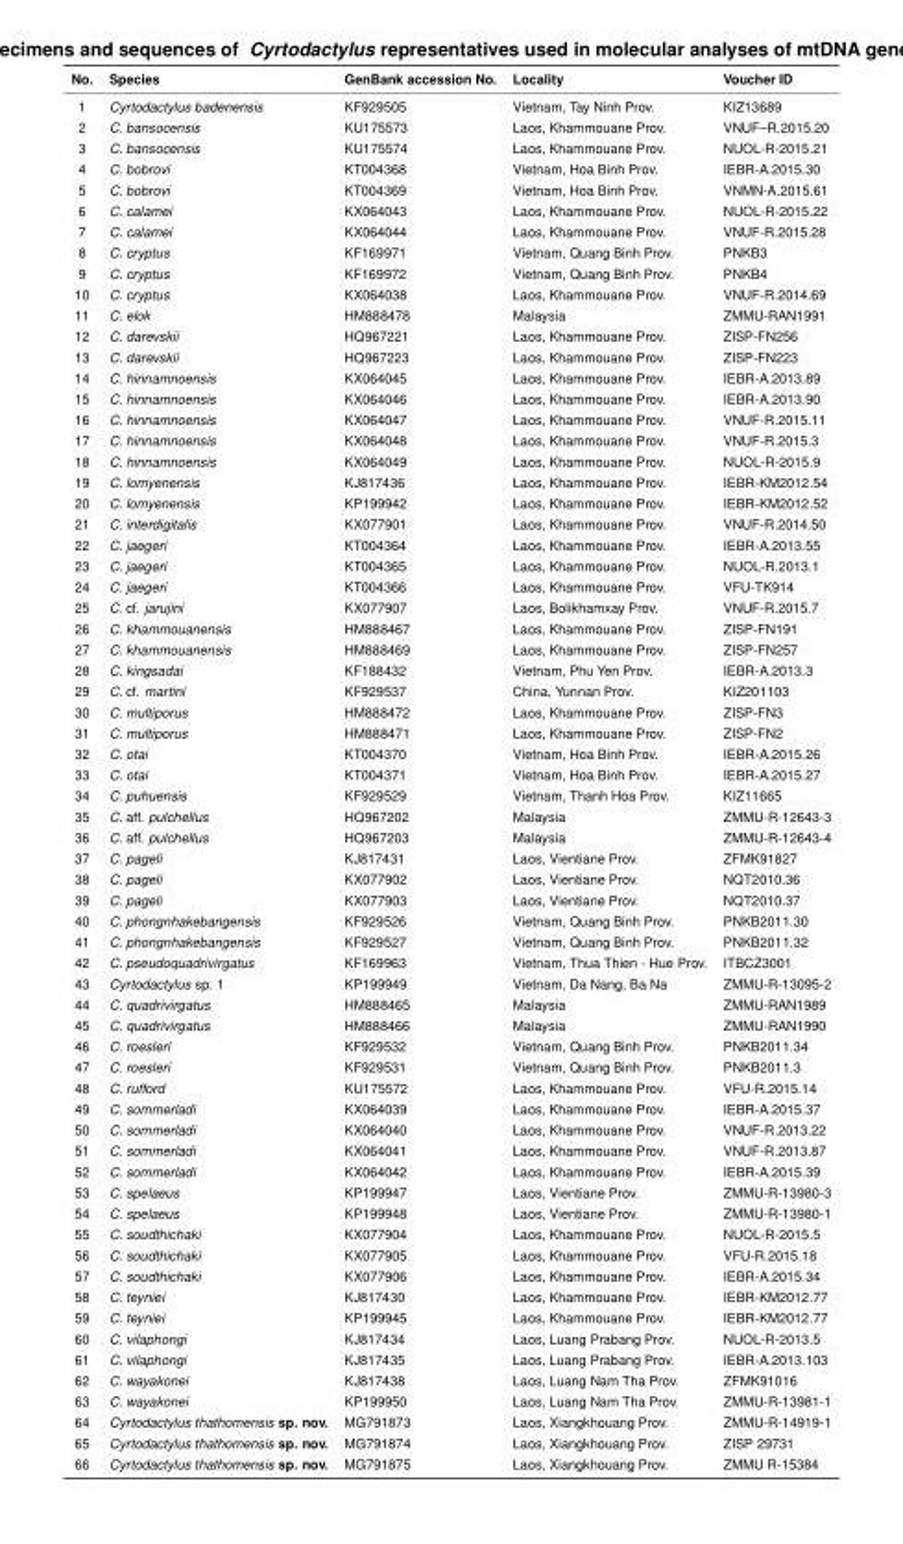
<table><thead><tr><td>No.</td><td>Species</td><td>GenBank accession No.</td><td>Locality</td><td>Voucher ID</td></tr></thead><tbody><tr><td>1</td><td>Cyrtodactylus badenensis</td><td>KF929505</td><td>Vietnam, Tay Ninh Prov.</td><td>KIZ13689</td></tr><tr><td>2</td><td>C. bansocensis</td><td>KU175573</td><td>Laos, Khammouane Prov.</td><td>VNUF–R.2015.20</td></tr><tr><td>3</td><td>C. bansocensis</td><td>KU175574</td><td>Laos, Khammouane Prov.</td><td>NUOL-R-2015.21</td></tr><tr><td>4</td><td>C. bobrovi</td><td>KT004368</td><td>Vietnam, Hoa Binh Prov.</td><td>IEBR-A.2015.30</td></tr><tr><td>5</td><td>C. bobrovi</td><td>KT004369</td><td>Vietnam, Hoa Binh Prov.</td><td>VNMN-A.2015.61</td></tr><tr><td>6</td><td>C. calamei</td><td>KX064043</td><td>Laos, Khammouane Prov.</td><td>NUOL-R-2015.22</td></tr><tr><td>7</td><td>C. calamei</td><td>KX064044</td><td>Laos, Khammouane Prov.</td><td>VNUF-R.2015.28</td></tr><tr><td>8</td><td>C. cryptus</td><td>KF169971</td><td>Vietnam, Quang Binh Prov.</td><td>PNKB3</td></tr><tr><td>9</td><td>C. cryptus</td><td>KF169972</td><td>Vietnam, Quang Binh Prov.</td><td>PNKB4</td></tr><tr><td>10</td><td>C. cryptus</td><td>KX064038</td><td>Laos, Khammouane Prov.</td><td>VNUF-R.2014.69</td></tr><tr><td>11</td><td>C. elok</td><td>HM888478</td><td>Malaysia</td><td>ZMMU-RAN1991</td></tr><tr><td>12</td><td>C. darevskii</td><td>HQ967221</td><td>Laos, Khammouane Prov.</td><td>ZISP-FN256</td></tr><tr><td>13</td><td>C. darevskii</td><td>HQ967223</td><td>Laos, Khammouane Prov.</td><td>ZISP-FN223</td></tr><tr><td>14</td><td>C. hinnamnoensis</td><td>KX064045</td><td>Laos, Khammouane Prov.</td><td>IEBR-A.2013.89</td></tr><tr><td>15</td><td>C. hinnamnoensis</td><td>KX064046</td><td>Laos, Khammouane Prov.</td><td>IEBR-A.2013.90</td></tr><tr><td>16</td><td>C. hinnamnoensis</td><td>KX064047</td><td>Laos, Khammouane Prov.</td><td>VNUF-R.2015.11</td></tr><tr><td>17</td><td>C. hinnamnoensis</td><td>KX064048</td><td>Laos, Khammouane Prov.</td><td>VNUF-R.2015.3</td></tr><tr><td>18</td><td>C. hinnamnoensis</td><td>KX064049</td><td>Laos, Khammouane Prov.</td><td>NUOL-R-2015.9</td></tr><tr><td>19</td><td>C. lomyenensis</td><td>KJ817436</td><td>Laos, Khammouane Prov.</td><td>IEBR-KM2012.54</td></tr><tr><td>20</td><td>C. lomyenensis</td><td>KP199942</td><td>Laos, Khammouane Prov.</td><td>IEBR-KM2012.52</td></tr><tr><td>21</td><td>C. interdigitalis</td><td>KX077901</td><td>Laos, Khammouane Prov.</td><td>VNUF-R.2014.50</td></tr><tr><td>22</td><td>C. jaegeri</td><td>KT004364</td><td>Laos, Khammouane Prov.</td><td>IEBR-A.2013.55</td></tr><tr><td>23</td><td>C. jaegeri</td><td>KT004365</td><td>Laos, Khammouane Prov.</td><td>NUOL-R.2013.1</td></tr><tr><td>24</td><td>C. jaegeri</td><td>KT004366</td><td>Laos, Khammouane Prov.</td><td>VFU-TK914</td></tr><tr><td>25</td><td>C. cf. jarujini</td><td>KX077907</td><td>Laos, Bolikhamxay Prov.</td><td>VNUF-R.2015.7</td></tr><tr><td>26</td><td>C. khammouanensis</td><td>HM888467</td><td>Laos, Khammouane Prov.</td><td>ZISP-FN191</td></tr><tr><td>27</td><td>C. khammouanensis</td><td>HM888469</td><td>Laos, Khammouane Prov.</td><td>ZISP-FN257</td></tr><tr><td>28</td><td>C. kingsadai</td><td>KF188432</td><td>Vietnam, Phu Yen Prov.</td><td>IEBR-A.2013.3</td></tr><tr><td>29</td><td>C. cf. martini</td><td>KF929537</td><td>China, Yunnan Prov.</td><td>KIZ201103</td></tr><tr><td>30</td><td>C. multiporus</td><td>HM888472</td><td>Laos, Khammouane Prov.</td><td>ZISP-FN3</td></tr><tr><td>31</td><td>C. multiporus</td><td>HM888471</td><td>Laos, Khammouane Prov.</td><td>ZISP-FN2</td></tr><tr><td>32</td><td>C. otai</td><td>KT004370</td><td>Vietnam, Hoa Binh Prov.</td><td>IEBR-A.2015.26</td></tr><tr><td>33</td><td>C. otai</td><td>KT004371</td><td>Vietnam, Hoa Binh Prov.</td><td>IEBR-A.2015.27</td></tr><tr><td>34</td><td>C. puhuensis</td><td>KF929529</td><td>Vietnam, Thanh Hoa Prov.</td><td>KIZ11665</td></tr><tr><td>35</td><td>C. aff. pulchellus</td><td>HQ967202</td><td>Malaysia</td><td>ZMMU-R-12643-3</td></tr><tr><td>36</td><td>C. aff. pulchellus</td><td>HQ967203</td><td>Malaysia</td><td>ZMMU-R-12643-4</td></tr><tr><td>37</td><td>C. pageli</td><td>KJ817431</td><td>Laos, Vientiane Prov.</td><td>ZFMK91827</td></tr><tr><td>38</td><td>C. pageli</td><td>KX077902</td><td>Laos, Vientiane Prov.</td><td>NQT2010.36</td></tr><tr><td>39</td><td>C. pageli</td><td>KX077903</td><td>Laos, Vientiane Prov.</td><td>NQT2010.37</td></tr><tr><td>40</td><td>C. phongnhakebangensis</td><td>KF929526</td><td>Vietnam, Quang Binh Prov.</td><td>PNKB2011.30</td></tr><tr><td>41</td><td>C. phongnhakebangensis</td><td>KF929527</td><td>Vietnam, Quang Binh Prov.</td><td>PNKB2011.32</td></tr><tr><td>42</td><td>C. pseudoquadrivirgatus</td><td>KF169963</td><td>Vietnam, Thua Thien - Hue Prov.</td><td>ITBCZ3001</td></tr><tr><td>43</td><td>Cyrtodactylus sp. 1</td><td>KP199949</td><td>Vietnam, Da Nang, Ba Na</td><td>ZMMU-R-13095-2</td></tr><tr><td>44</td><td>C. quadrivirgatus</td><td>HM888465</td><td>Malaysia</td><td>ZMMU-RAN1989</td></tr><tr><td>45</td><td>C. quadrivirgatus</td><td>HM888466</td><td>Malaysia</td><td>ZMMU-RAN1990</td></tr><tr><td>46</td><td>C. roesleri</td><td>KF929532</td><td>Vietnam, Quang Binh Prov.</td><td>PNKB2011.34</td></tr><tr><td>47</td><td>C. roesleri</td><td>KF929531</td><td>Vietnam, Quang Binh Prov.</td><td>PNKB2011.3</td></tr><tr><td>48</td><td>C. rufford</td><td>KU175572</td><td>Laos, Khammouane Prov.</td><td>VFU-R.2015.14</td></tr><tr><td>49</td><td>C. sommerladi</td><td>KX064039</td><td>Laos, Khammouane Prov.</td><td>IEBR-A.2015.37</td></tr><tr><td>50</td><td>C. sommerladi</td><td>KX064040</td><td>Laos, Khammouane Prov.</td><td>VNUF-R.2013.22</td></tr><tr><td>51</td><td>C. sommerladi</td><td>KX064041</td><td>Laos, Khammouane Prov.</td><td>VNUF-R.2013.87</td></tr><tr><td>52</td><td>C. sommerladi</td><td>KX064042</td><td>Laos, Khammouane Prov.</td><td>IEBR-A.2015.39</td></tr><tr><td>53</td><td>C. spelaeus</td><td>KP199947</td><td>Laos, Vientiane Prov.</td><td>ZMMU-R-13980-3</td></tr><tr><td>54</td><td>C. spelaeus</td><td>KP199948</td><td>Laos, Vientiane Prov.</td><td>ZMMU-R-13980-1</td></tr><tr><td>55</td><td>C. soudthichaki</td><td>KX077904</td><td>Laos, Khammouane Prov.</td><td>NUOL-R-2015.5</td></tr><tr><td>56</td><td>C. soudthichaki</td><td>KX077905</td><td>Laos, Khammouane Prov.</td><td>VFU-R.2015.18</td></tr><tr><td>57</td><td>C. soudthichaki</td><td>KX077906</td><td>Laos, Khammouane Prov.</td><td>IEBR-A.2015.34</td></tr><tr><td>58</td><td>C. teyniei</td><td>KJ817430</td><td>Laos, Khammouane Prov.</td><td>IEBR-KM2012.77</td></tr><tr><td>59</td><td>C. teyniei</td><td>KP199945</td><td>Laos, Khammouane Prov.</td><td>IEBR-KM2012.77</td></tr><tr><td>60</td><td>C. vilaphongi</td><td>KJ817434</td><td>Laos, Luang Prabang Prov.</td><td>NUOL-R-2013.5</td></tr><tr><td>61</td><td>C. vilaphongi</td><td>KJ817435</td><td>Laos, Luang Prabang Prov.</td><td>IEBR-A.2013.103</td></tr><tr><td>62</td><td>C. wayakonei</td><td>KJ817438</td><td>Laos, Luang Nam Tha Prov.</td><td>ZFMK91016</td></tr><tr><td>63</td><td>C. wayakonei</td><td>KP199950</td><td>Laos, Luang Nam Tha Prov.</td><td>ZMMU-R-13981-1</td></tr><tr><td>64</td><td>Cyrtodactylus thathomensis sp. nov.</td><td>MG791873</td><td>Laos, Xiangkhouang Prov.</td><td>ZMMU-R-14919-1</td></tr><tr><td>65</td><td>Cyrtodactylus thathomensis sp. nov.</td><td>MG791874</td><td>Laos, Xiangkhouang Prov.</td><td>ZISP 29731</td></tr><tr><td>66</td><td>Cyrtodactylus thathomensis sp. nov.</td><td>MG791875</td><td>Laos, Xiangkhouang Prov.</td><td>ZMMU R-15384</td></tr></tbody></table>